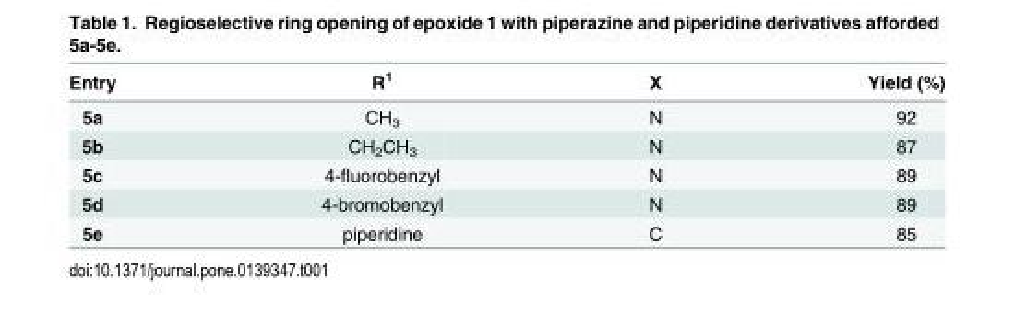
<table><thead><tr><td>Entry</td><td>R<sup>1</sup></td><td>X</td><td>Yield (%)</td></tr></thead><tbody><tr><td>5a</td><td>CH<sub>3</sub></td><td>N</td><td>92</td></tr><tr><td>5b</td><td>CH<sub>2</sub>CH<sub>3</sub></td><td>N</td><td>87</td></tr><tr><td>5c</td><td>4-fluorobenzyl</td><td>N</td><td>89</td></tr><tr><td>5d</td><td>4-bromobenzyl</td><td>N</td><td>89</td></tr><tr><td>5e</td><td>piperidine</td><td>C</td><td>85</td></tr></tbody></table>